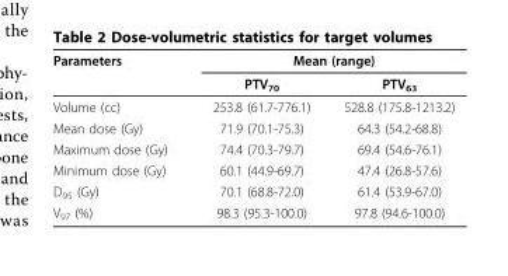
<table><thead><tr><td rowspan="2">Parameters</td><td colspan="2">Mean (range)</td></tr><tr><td>PTV<sub>70</sub></td><td>PTV<sub>63</sub></td></tr></thead><tbody><tr><td>Volume (cc)</td><td>253.8 (61.7-776.1)</td><td>528.8 (175.8-1213.2)</td></tr><tr><td>Mean dose (Gy)</td><td>71.9 (70.1-75.3)</td><td>64.3 (54.2-68.8)</td></tr><tr><td>Maximum dose (Gy)</td><td>74.4 (70.3-79.7)</td><td>69.4 (54.6-76.1)</td></tr><tr><td>Minimum dose (Gy)</td><td>60.1 (44.9-69.7)</td><td>47.4 (26.8-57.6)</td></tr><tr><td>D<sub>95</sub> (Gy)</td><td>70.1 (68.8-72.0)</td><td>61.4 (53.9-67.0)</td></tr><tr><td>V<sub>97</sub> (%)</td><td>98.3 (95.3-100.0)</td><td>97.8 (94.6-100.0)</td></tr></tbody></table>